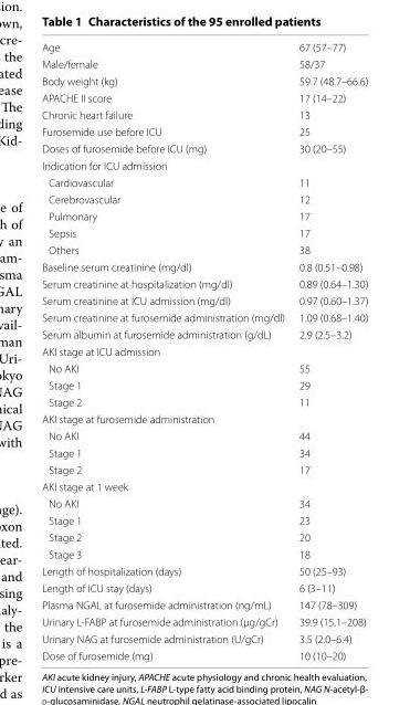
<table><tbody><tr><td>Age</td><td>67 (57–77)</td></tr><tr><td>Male/female</td><td>58/37</td></tr><tr><td>Body weight (kg)</td><td>59.7 (48.7–66.6)</td></tr><tr><td>APACHE II score</td><td>17 (14–22)</td></tr><tr><td>Chronic heart failure</td><td>13</td></tr><tr><td>Furosemide use before ICU</td><td>25</td></tr><tr><td>Doses of furosemide before ICU (mg)</td><td>30 (20–55)</td></tr><tr><td colspan="2">Indication for ICU admission</td></tr><tr><td>Cardiovascular</td><td>11</td></tr><tr><td>Cerebrovascular</td><td>12</td></tr><tr><td>Pulmonary</td><td>17</td></tr><tr><td>Sepsis</td><td>17</td></tr><tr><td>Others</td><td>38</td></tr><tr><td>Baseline serum creatinine (mg/dl)</td><td>0.8 (0.51–0.98)</td></tr><tr><td>Serum creatinine at hospitalization (mg/dl)</td><td>0.89 (0.64–1.30)</td></tr><tr><td>Serum creatinine at ICU admission (mg/dl)</td><td>0.97 (0.60–1.37)</td></tr><tr><td>Serum creatinine at furosemide administration (mg/dl)</td><td>1.09 (0.68–1.40)</td></tr><tr><td>Serum albumin at furosemide administration (g/dL)</td><td>2.9 (2.5–3.2)</td></tr><tr><td colspan="2">AKI stage at ICU admission</td></tr><tr><td>No AKI</td><td>55</td></tr><tr><td>Stage 1</td><td>29</td></tr><tr><td>Stage 2</td><td>11</td></tr><tr><td colspan="2">AKI stage at furosemide administration</td></tr><tr><td>No AKI</td><td>44</td></tr><tr><td>Stage 1</td><td>34</td></tr><tr><td>Stage 2</td><td>17</td></tr><tr><td colspan="2">AKI stage at 1 week</td></tr><tr><td>No AKI</td><td>34</td></tr><tr><td>Stage 1</td><td>23</td></tr><tr><td>Stage 2</td><td>20</td></tr><tr><td>Stage 3</td><td>18</td></tr><tr><td>Length of hospitalization (days)</td><td>50 (25–93)</td></tr><tr><td>Length of ICU stay (days)</td><td>6 (3–11)</td></tr><tr><td>Plasma NGAL at furosemide administration (ng/mL)</td><td>147 (78–309)</td></tr><tr><td>Urinary L-FABP at furosemide administration (μg/gCr)</td><td>39.9 (15.1–208)</td></tr><tr><td>Urinary NAG at furosemide administration (U/gCr)</td><td>3.5 (2.0–6.4)</td></tr><tr><td>Dose of furosemide (mg)</td><td>10 (10–20)</td></tr></tbody></table>